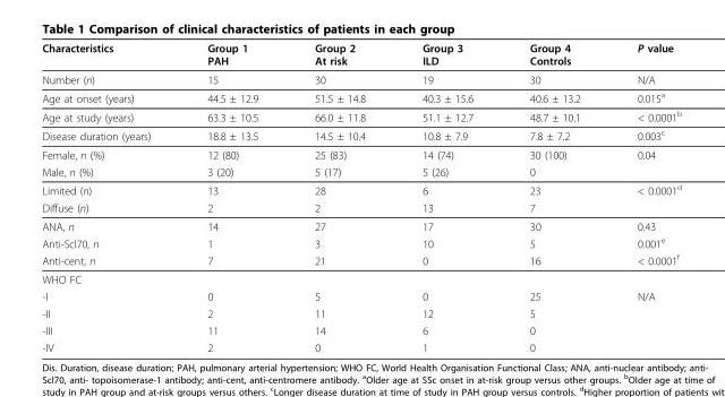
<table><thead><tr><td>Characteristics</td><td>Group 1 PAH</td><td>Group 2 At risk</td><td>Group 3 ILD</td><td>Group 4 Controls</td><td>P value</td></tr></thead><tbody><tr><td>Number (n)</td><td>15</td><td>30</td><td>19</td><td>30</td><td>N/A</td></tr><tr><td>Age at onset (years)</td><td>44.5 ± 12.9</td><td>51.5 ± 14.8</td><td>40.3 ± 15.6</td><td>40.6 ± 13.2</td><td>0.015<sup>a</sup></td></tr><tr><td>Age at study (years)</td><td>63.3 ± 10.5</td><td>66.0 ± 11.8</td><td>51.1 ± 12.7</td><td>48.7 ± 10.1</td><td>&lt; 0.0001<sup>b</sup></td></tr><tr><td>Disease duration (years)</td><td>18.8 ± 13.5</td><td>14.5 ± 10.4</td><td>10.8 ± 7.9</td><td>7.8 ± 7.2</td><td>0.003<sup>c</sup></td></tr><tr><td>Female, n (%)</td><td>12 (80)</td><td>25 (83)</td><td>14 (74)</td><td>30 (100)</td><td>0.04</td></tr><tr><td>Male, n (%)</td><td>3 (20)</td><td>5 (17)</td><td>5 (26)</td><td>0</td><td></td></tr><tr><td>Limited (n)</td><td>13</td><td>28</td><td>6</td><td>23</td><td>&lt; 0.0001<sup>d</sup></td></tr><tr><td>Diffuse (n)</td><td>2</td><td>2</td><td>13</td><td>7</td><td></td></tr><tr><td>ANA, n</td><td>14</td><td>27</td><td>17</td><td>30</td><td>0.43</td></tr><tr><td>Anti-Scl70, n</td><td>1</td><td>3</td><td>10</td><td>5</td><td>0.001<sup>e</sup></td></tr><tr><td>Anti-cent, n</td><td>7</td><td>21</td><td>0</td><td>16</td><td>&lt; 0.0001<sup>f</sup></td></tr><tr><td colspan="6">WHO FC</td></tr><tr><td>-I</td><td>0</td><td>5</td><td>0</td><td>25</td><td>N/A</td></tr><tr><td>-II</td><td>2</td><td>11</td><td>12</td><td>5</td><td></td></tr><tr><td>-III</td><td>11</td><td>14</td><td>6</td><td>0</td><td></td></tr><tr><td>-IV</td><td>2</td><td>0</td><td>1</td><td>0</td><td></td></tr></tbody></table>